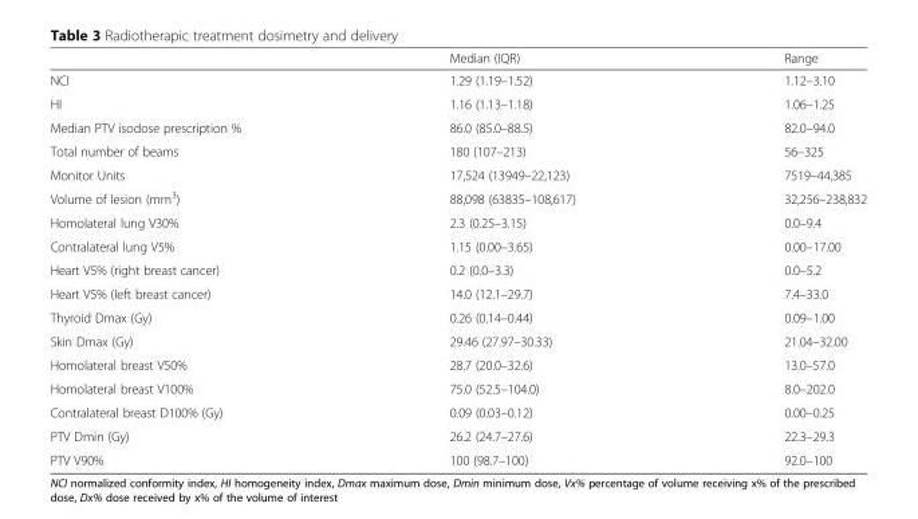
<table><thead><tr><td></td><td>Median (IQR)</td><td>Range</td></tr></thead><tbody><tr><td>NCI</td><td>1.29 (1.19–1.52)</td><td>1.12–3.10</td></tr><tr><td>HI</td><td>1.16 (1.13–1.18)</td><td>1.06–1.25</td></tr><tr><td>Median PTV isodose prescription %</td><td>86.0 (85.0–88.5)</td><td>82.0–94.0</td></tr><tr><td>Total number of beams</td><td>180 (107–213)</td><td>56–325</td></tr><tr><td>Monitor Units</td><td>17,524 (13949–22,123)</td><td>7519–44,385</td></tr><tr><td>Volume of lesion (mm<sup>3</sup>)</td><td>88,098 (63835–108,617)</td><td>32,256–238,832</td></tr><tr><td>Homolateral lung V30%</td><td>2.3 (0.25–3.15)</td><td>0.0–9.4</td></tr><tr><td>Contralateral lung V5%</td><td>1.15 (0.00–3.65)</td><td>0.00–17.00</td></tr><tr><td>Heart V5% (right breast cancer)</td><td>0.2 (0.0–3.3)</td><td>0.0–5.2</td></tr><tr><td>Heart V5% (left breast cancer)</td><td>14.0 (12.1–29.7)</td><td>7.4–33.0</td></tr><tr><td>Thyroid Dmax (Gy)</td><td>0.26 (0.14–0.44)</td><td>0.09–1.00</td></tr><tr><td>Skin Dmax (Gy)</td><td>29.46 (27.97–30.33)</td><td>21.04–32.00</td></tr><tr><td>Homolateral breast V50%</td><td>28.7 (20.0–32.6)</td><td>13.0–57.0</td></tr><tr><td>Homolateral breast V100%</td><td>75.0 (52.5–104.0)</td><td>8.0–202.0</td></tr><tr><td>Contralateral breast D100% (Gy)</td><td>0.09 (0.03–0.12)</td><td>0.00–0.25</td></tr><tr><td>PTV Dmin (Gy)</td><td>26.2 (24.7–27.6)</td><td>22.3–29.3</td></tr><tr><td>PTV V90%</td><td>100 (98.7–100)</td><td>92.0–100</td></tr></tbody></table>